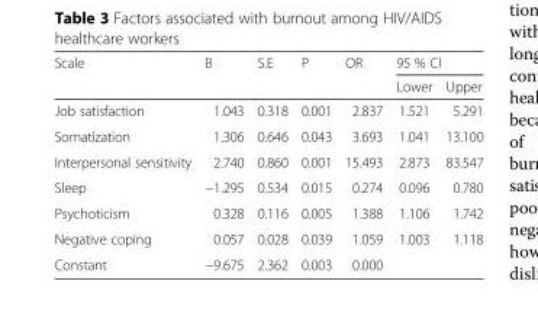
<table><thead><tr><td rowspan="2">Scale</td><td rowspan="2">B</td><td rowspan="2">S.E</td><td rowspan="2">P</td><td rowspan="2">OR</td><td colspan="2">95 % Cl</td></tr><tr><td>Lower</td><td>Upper</td></tr></thead><tbody><tr><td>Job satisfaction</td><td>1.043</td><td>0.318</td><td>0.001</td><td>2.837</td><td>1.521</td><td>5.291</td></tr><tr><td>Somatization</td><td>1.306</td><td>0.646</td><td>0.043</td><td>3.693</td><td>1.041</td><td>13.100</td></tr><tr><td>Interpersonal sensitivity</td><td>2.740</td><td>0.860</td><td>0.001</td><td>15.493</td><td>2.873</td><td>83.547</td></tr><tr><td>Sleep</td><td>−1.295</td><td>0.534</td><td>0.015</td><td>0.274</td><td>0.096</td><td>0.780</td></tr><tr><td>Psychoticism</td><td>0.328</td><td>0.116</td><td>0.005</td><td>1.388</td><td>1.106</td><td>1.742</td></tr><tr><td>Negative coping</td><td>0.057</td><td>0.028</td><td>0.039</td><td>1.059</td><td>1.003</td><td>1.118</td></tr><tr><td>Constant</td><td>−9.675</td><td>2.362</td><td>0.003</td><td>0.000</td><td></td><td></td></tr></tbody></table>